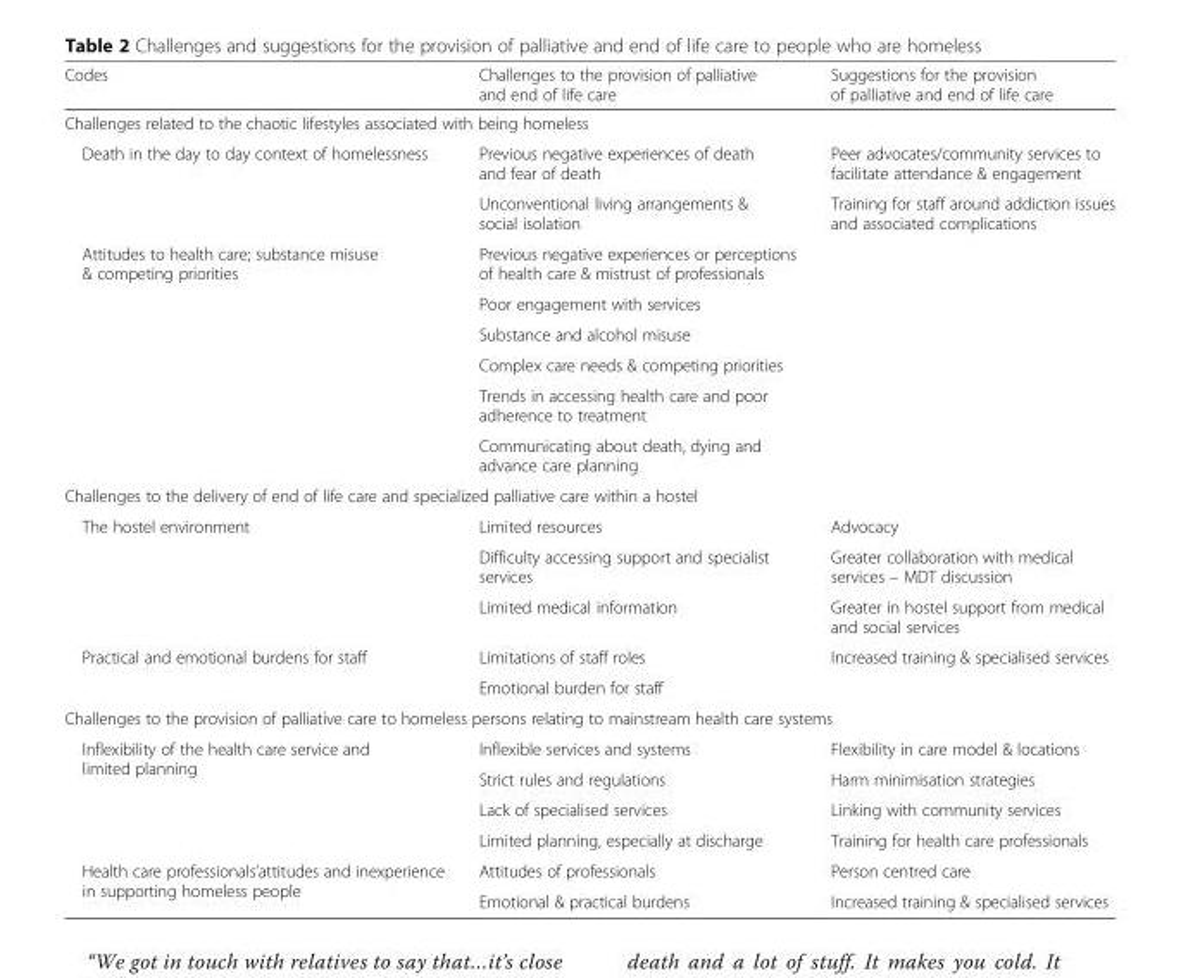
<table><thead><tr><td>Codes</td><td>Challenges to the provision of palliative and end of life care</td><td>Suggestions for the provision of palliative and end of life care</td></tr></thead><tbody><tr><td colspan="3">Challenges related to the chaotic lifestyles associated with being homeless</td></tr><tr><td rowspan="2">Death in the day to day context of homelessness</td><td>Previous negative experiences of death and fear of death</td><td>Peer advocates/community services to facilitate attendance &amp; engagement</td></tr><tr><td>Unconventional living arrangements &amp; social isolation</td><td>Training for staff around addiction issues and associated complications</td></tr><tr><td rowspan="6">Attitudes to health care; substance misuse &amp; competing priorities</td><td>Previous negative experiences or perceptions of health care &amp; mistrust of professionals</td><td></td></tr><tr><td>Poor engagement with services</td><td></td></tr><tr><td>Substance and alcohol misuse</td><td></td></tr><tr><td>Complex care needs &amp; competing priorities</td><td></td></tr><tr><td>Trends in accessing health care and poor adherence to treatment</td><td></td></tr><tr><td>Communicating about death, dying and advance care planning</td><td></td></tr><tr><td colspan="3">Challenges to the delivery of end of life care and specialized palliative care within a hostel</td></tr><tr><td rowspan="3">The hostel environment</td><td>Limited resources</td><td>Advocacy</td></tr><tr><td>Difficulty accessing support and specialist services</td><td>Greater collaboration with medical services – MDT discussion</td></tr><tr><td>Limited medical information</td><td>Greater in hostel support from medical and social services</td></tr><tr><td rowspan="2">Practical and emotional burdens for staff</td><td>Limitations of staff roles</td><td>Increased training &amp; specialised services</td></tr><tr><td>Emotional burden for staff</td><td></td></tr><tr><td colspan="3">Challenges to the provision of palliative care to homeless persons relating to mainstream health care systems</td></tr><tr><td rowspan="4">Inflexibility of the health care service and limited planning</td><td>Inflexible services and systems</td><td>Flexibility in care model &amp; locations</td></tr><tr><td>Strict rules and regulations</td><td>Harm minimisation strategies</td></tr><tr><td>Lack of specialised services</td><td>Linking with community services</td></tr><tr><td>Limited planning, especially at discharge</td><td>Training for health care professionals</td></tr><tr><td rowspan="2">Health care professionals’attitudes and inexperience in supporting homeless people</td><td>Attitudes of professionals</td><td>Person centred care</td></tr><tr><td>Emotional &amp; practical burdens</td><td>Increased training &amp; specialised services</td></tr></tbody></table>